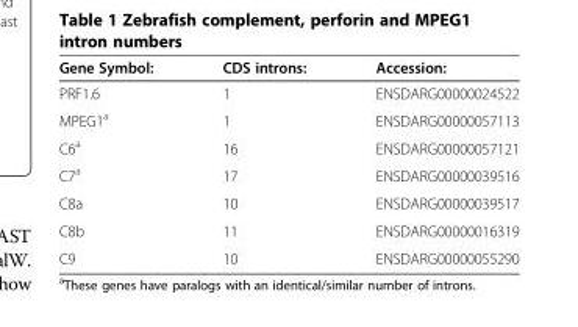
<table><thead><tr><td>Gene Symbol:</td><td>CDS introns:</td><td>Accession:</td></tr></thead><tbody><tr><td>PRF1.6</td><td>1</td><td>ENSDARG00000024522</td></tr><tr><td>MPEG1<sup>a</sup></td><td>1</td><td>ENSDARG00000057113</td></tr><tr><td>C6<sup>a</sup></td><td>16</td><td>ENSDARG00000057121</td></tr><tr><td>C7<sup>a</sup></td><td>17</td><td>ENSDARG00000039516</td></tr><tr><td>C8a</td><td>10</td><td>ENSDARG00000039517</td></tr><tr><td>C8b</td><td>11</td><td>ENSDARG00000016319</td></tr><tr><td>C9</td><td>10</td><td>ENSDARG00000055290</td></tr></tbody></table>